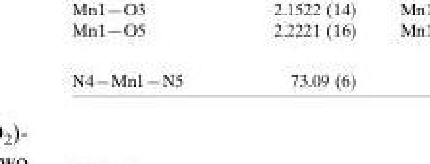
<table><tbody><tr><td>N4—Mn1—N5</td><td>73.09 (6)</td></tr></tbody></table>